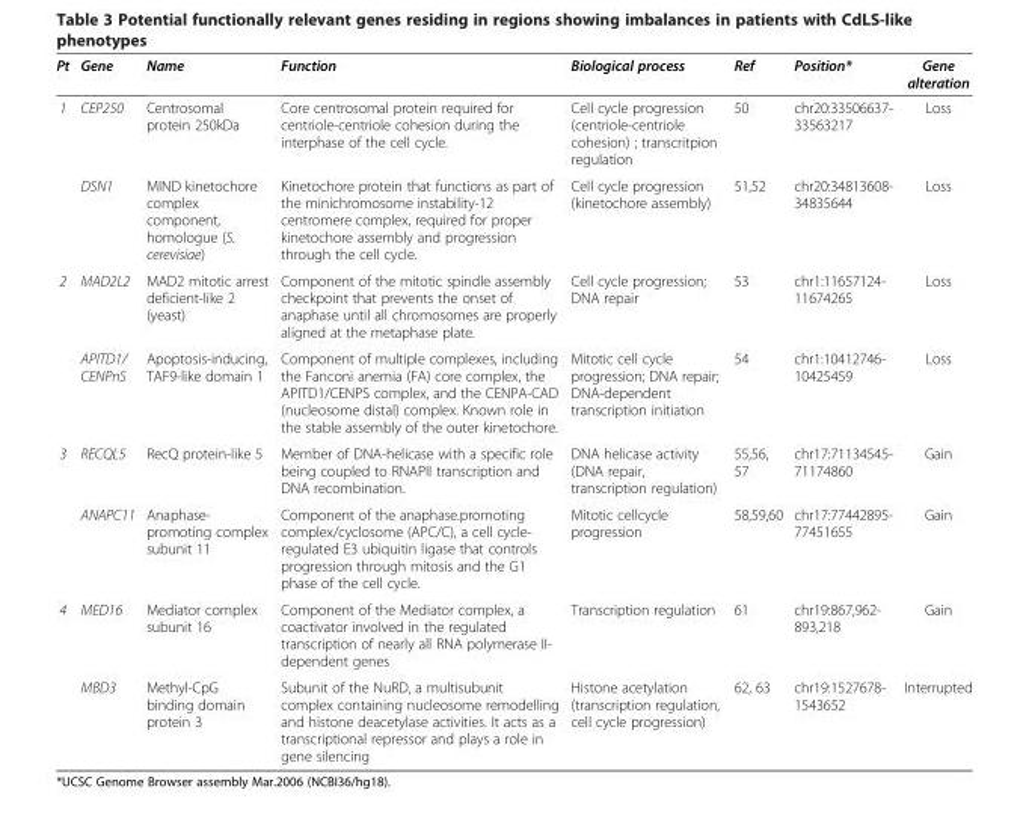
<table><thead><tr><td>Pt</td><td>Gene</td><td>Name</td><td>Function</td><td>Biological process</td><td>Ref</td><td>Position*</td><td>Gene alteration</td></tr></thead><tbody><tr><td rowspan="2">1</td><td>CEP250</td><td>Centrosomal protein 250kDa</td><td>Core centrosomal protein required for centriole-centriole cohesion during the interphase of the cell cycle.</td><td>Cell cycle progression (centriole-centriole cohesion) ; transcritpion regulation</td><td>50</td><td>chr20:33506637- 33563217</td><td>Loss</td></tr><tr><td>DSN1</td><td>MIND kinetochore complex component, homologue (S. cerevisiae)</td><td>Kinetochore protein that functions as part of the minichromosome instability-12 centromere complex, required for proper kinetochore assembly and progression through the cell cycle.</td><td>Cell cycle progression (kinetochore assembly)</td><td>51,52</td><td>chr20:34813608- 34835644</td><td>Loss</td></tr><tr><td rowspan="2">2</td><td>MAD2L2</td><td>MAD2 mitotic arrest deficient-like 2 (yeast)</td><td>Component of the mitotic spindle assembly checkpoint that prevents the onset of anaphase until all chromosomes are properly aligned at the metaphase plate.</td><td>Cell cycle progression; DNA repair</td><td>53</td><td>chr1:11657124- 11674265</td><td>Loss</td></tr><tr><td>APITD1/ CENPnS</td><td>Apoptosis-inducing, TAF9-like domain 1</td><td>Component of multiple complexes, including the Fanconi anemia (FA) core complex, the APITD1/CENPS complex, and the CENPA-CAD (nucleosome distal) complex. Known role in the stable assembly of the outer kinetochore.</td><td>Mitotic cell cycle progression; DNA repair; DNA-dependent transcription initiation</td><td>54</td><td>chr1:10412746- 10425459</td><td>Loss</td></tr><tr><td rowspan="2">3</td><td>RECQL5</td><td>RecQ protein-like 5</td><td>Member of DNA-helicase with a specific role being coupled to RNAPII transcription and DNA recombination.</td><td>DNA helicase activity (DNA repair, transcription regulation)</td><td>55,56, 57</td><td>chr17:71134545- 71174860</td><td>Gain</td></tr><tr><td>ANAPC11</td><td>Anaphase- promoting complex subunit 11</td><td>Component of the anaphase.promoting complex/cyclosome (APC/C), a cell cycle- regulated E3 ubiquitin ligase that controls progression through mitosis and the G1 phase of the cell cycle.</td><td>Mitotic cellcycle progression</td><td>58,59,60</td><td>chr17:77442895- 77451655</td><td>Gain</td></tr><tr><td rowspan="2">4</td><td>MED16</td><td>Mediator complex subunit 16</td><td>Component of the Mediator complex, a coactivator involved in the regulated transcription of nearly all RNA polymerase II- dependent genes</td><td>Transcription regulation</td><td>61</td><td>chr19:867,962- 893,218</td><td>Gain</td></tr><tr><td>MBD3</td><td>Methyl-CpG binding domain protein 3</td><td>Subunit of the NuRD, a multisubunit complex containing nucleosome remodelling and histone deacetylase activities. It acts as a transcriptional repressor and plays a role in gene silencing</td><td>Histone acetylation (transcription regulation, cell cycle progression)</td><td>62, 63</td><td>chr19:1527678- 1543652</td><td>Interrupted</td></tr></tbody></table>